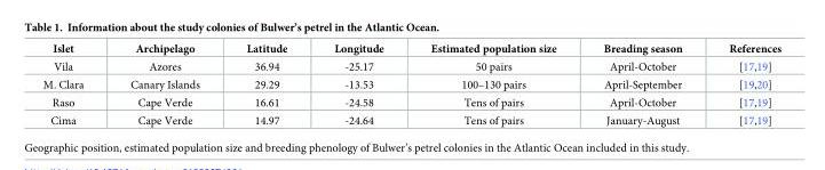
<table><thead><tr><td>Islet</td><td>Archipelago</td><td>Latitude</td><td>Longitude</td><td>Estimated population size</td><td>Breading season</td><td>References</td></tr></thead><tbody><tr><td>Vila</td><td>Azores</td><td>36.94</td><td>-25.17</td><td>50 pairs</td><td>April-October</td><td>[17,19]</td></tr><tr><td>M. Clara</td><td>Canary Islands</td><td>29.29</td><td>-13.53</td><td>100–130 pairs</td><td>April-September</td><td>[19,20]</td></tr><tr><td>Raso</td><td>Cape Verde</td><td>16.61</td><td>-24.58</td><td>Tens of pairs</td><td>April-October</td><td>[17,19]</td></tr><tr><td>Cima</td><td>Cape Verde</td><td>14.97</td><td>-24.64</td><td>Tens of pairs</td><td>January-August</td><td>[17,19]</td></tr></tbody></table>